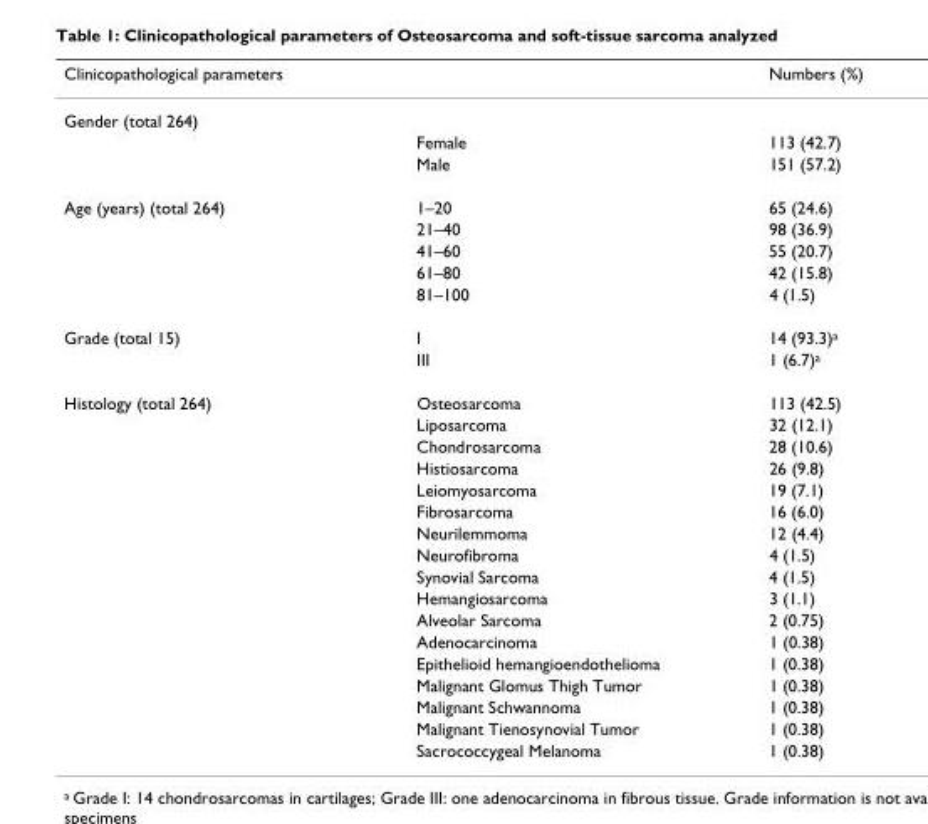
<table><thead><tr><td colspan="2">Clinicopathological parameters</td><td rowspan="2">Numbers (%)</td></tr><tr><td>Gender (total 264)</td><td></td></tr></thead><tbody><tr><td></td><td>Female</td><td>113 (42.7)</td></tr><tr><td></td><td>Male</td><td>151 (57.2)</td></tr><tr><td rowspan="5">Age (years) (total 264)</td><td>1–20</td><td>65 (24.6)</td></tr><tr><td>21–40</td><td>98 (36.9)</td></tr><tr><td>41–60</td><td>55 (20.7)</td></tr><tr><td>61–80</td><td>42 (15.8)</td></tr><tr><td>81–100</td><td>4 (1.5)</td></tr><tr><td rowspan="2">Grade (total 15)</td><td>I</td><td>14 (93.3)<sup>a</sup></td></tr><tr><td>III</td><td>1 (6.7)<sup>a</sup></td></tr><tr><td rowspan="17">Histology (total 264)</td><td>Osteosarcoma</td><td>113 (42.5)</td></tr><tr><td>Liposarcoma</td><td>32 (12.1)</td></tr><tr><td>Chondrosarcoma</td><td>28 (10.6)</td></tr><tr><td>Histiosarcoma</td><td>26 (9.8)</td></tr><tr><td>Leiomyosarcoma</td><td>19 (7.1)</td></tr><tr><td>Fibrosarcoma</td><td>16 (6.0)</td></tr><tr><td>Neurilemmoma</td><td>12 (4.4)</td></tr><tr><td>Neurofibroma</td><td>4 (1.5)</td></tr><tr><td>Synovial Sarcoma</td><td>4 (1.5)</td></tr><tr><td>Hemangiosarcoma</td><td>3 (1.1)</td></tr><tr><td>Alveolar Sarcoma</td><td>2 (0.75)</td></tr><tr><td>Adenocarcinoma</td><td>1 (0.38)</td></tr><tr><td>Epithelioid hemangioendothelioma</td><td>1 (0.38)</td></tr><tr><td>Malignant Glomus Thigh Tumor</td><td>1 (0.38)</td></tr><tr><td>Malignant Schwannoma</td><td>1 (0.38)</td></tr><tr><td>Malignant Tienosynovial Tumor</td><td>1 (0.38)</td></tr><tr><td>Sacrococcygeal Melanoma</td><td>1 (0.38)</td></tr></tbody></table>